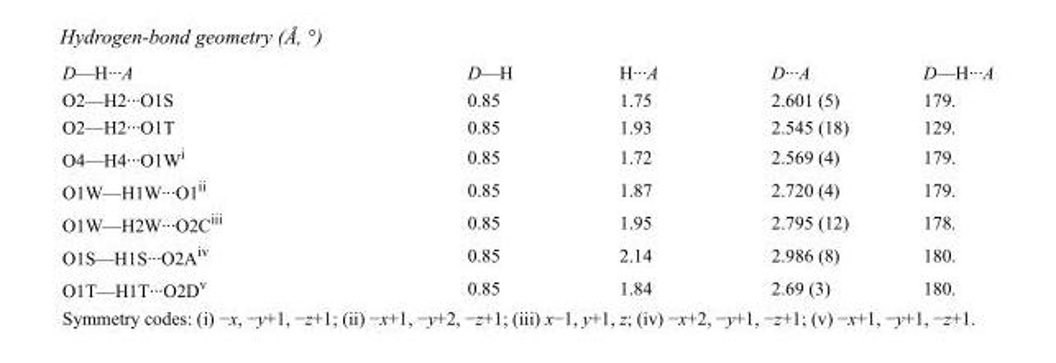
<table><tbody><tr><td>D—H···A</td><td>D—H</td><td>H···A</td><td>D···A</td><td>D—H···A</td></tr><tr><td>O2—H2···O1S</td><td>0.85</td><td>1.75</td><td>2.601 (5)</td><td>179.</td></tr><tr><td>O2—H2···O1T</td><td>0.85</td><td>1.93</td><td>2.545 (18)</td><td>129.</td></tr><tr><td>O4—H4···O1W<sup>i</sup></td><td>0.85</td><td>1.72</td><td>2.569 (4)</td><td>179.</td></tr><tr><td>O1W—H1W···O1<sup>ii</sup></td><td>0.85</td><td>1.87</td><td>2.720 (4)</td><td>179.</td></tr><tr><td>O1W—H2W···O2C<sup>iii</sup></td><td>0.85</td><td>1.95</td><td>2.795 (12)</td><td>178.</td></tr><tr><td>O1S—H1S···O2A<sup>iv</sup></td><td>0.85</td><td>2.14</td><td>2.986 (8)</td><td>180.</td></tr><tr><td>O1T—H1T···O2D<sup>v</sup></td><td>0.85</td><td>1.84</td><td>2.69 (3)</td><td>180.</td></tr></tbody></table>